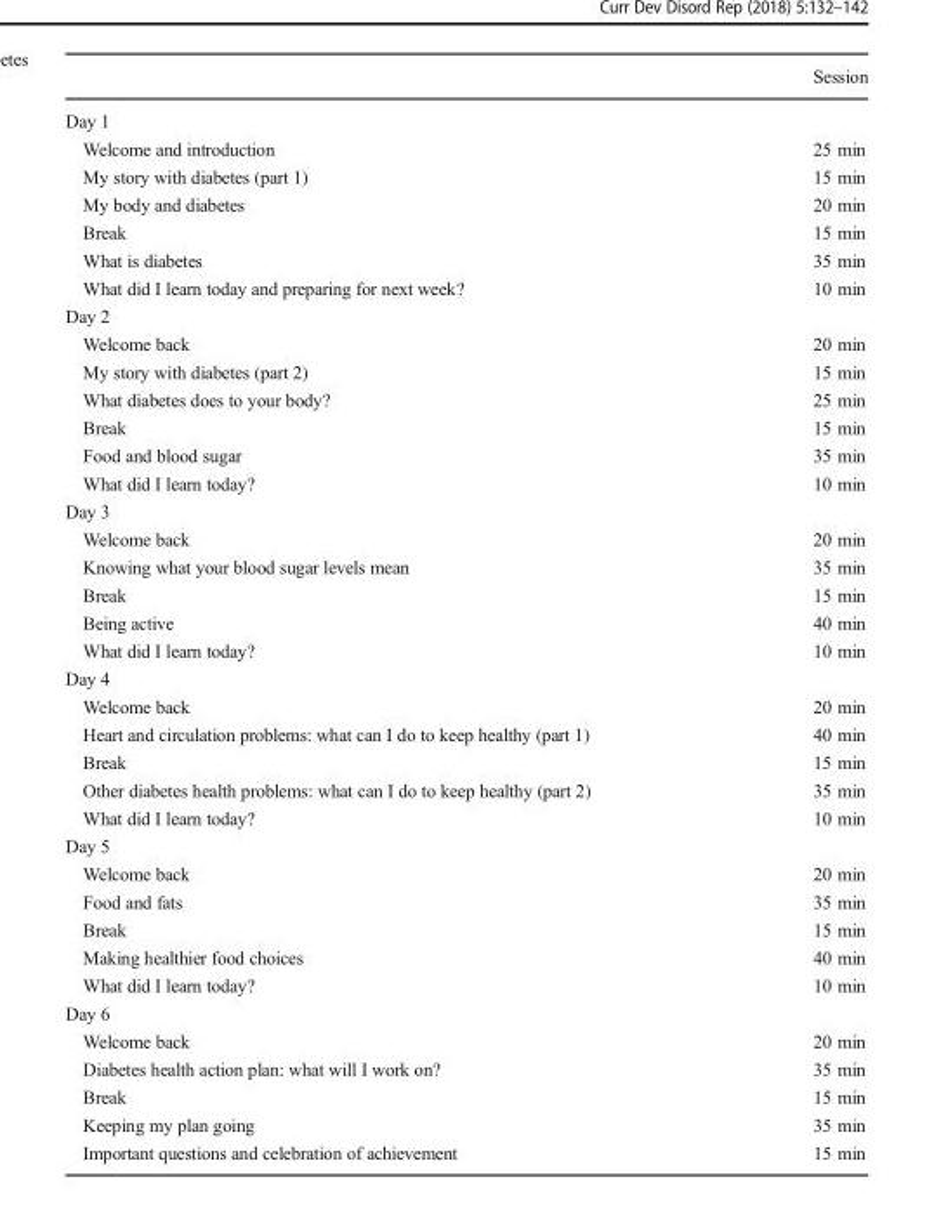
<table><thead><tr><td></td><td>Session</td></tr></thead><tbody><tr><td colspan="2">Day 1</td></tr><tr><td>Welcome and introduction</td><td>25 min</td></tr><tr><td>My story with diabetes (part 1)</td><td>15 min</td></tr><tr><td>My body and diabetes</td><td>20 min</td></tr><tr><td>Break</td><td>15 min</td></tr><tr><td>What is diabetes</td><td>35 min</td></tr><tr><td>What did I learn today and preparing for next week?</td><td>10 min</td></tr><tr><td colspan="2">Day 2</td></tr><tr><td>Welcome back</td><td>20 min</td></tr><tr><td>My story with diabetes (part 2)</td><td>15 min</td></tr><tr><td>What diabetes does to your body?</td><td>25 min</td></tr><tr><td>Break</td><td>15 min</td></tr><tr><td>Food and blood sugar</td><td>35 min</td></tr><tr><td>What did I learn today?</td><td>10 min</td></tr><tr><td colspan="2">Day 3</td></tr><tr><td>Welcome back</td><td>20 min</td></tr><tr><td>Knowing what your blood sugar levels mean</td><td>35 min</td></tr><tr><td>Break</td><td>15 min</td></tr><tr><td>Being active</td><td>40 min</td></tr><tr><td>What did I learn today?</td><td>10 min</td></tr><tr><td colspan="2">Day 4</td></tr><tr><td>Welcome back</td><td>20 min</td></tr><tr><td>Heart and circulation problems: what can I do to keep healthy (part 1)</td><td>40 min</td></tr><tr><td>Break</td><td>15 min</td></tr><tr><td>Other diabetes health problems: what can I do to keep healthy (part 2)</td><td>35 min</td></tr><tr><td>What did I learn today?</td><td>10 min</td></tr><tr><td colspan="2">Day 5</td></tr><tr><td>Welcome back</td><td>20 min</td></tr><tr><td>Food and fats</td><td>35 min</td></tr><tr><td>Break</td><td>15 min</td></tr><tr><td>Making healthier food choices</td><td>40 min</td></tr><tr><td>What did I learn today?</td><td>10 min</td></tr><tr><td colspan="2">Day 6</td></tr><tr><td>Welcome back</td><td>20 min</td></tr><tr><td>Diabetes health action plan: what will I work on?</td><td>35 min</td></tr><tr><td>Break</td><td>15 min</td></tr><tr><td>Keeping my plan going</td><td>35 min</td></tr><tr><td>Important questions and celebration of achievement</td><td>15 min</td></tr></tbody></table>